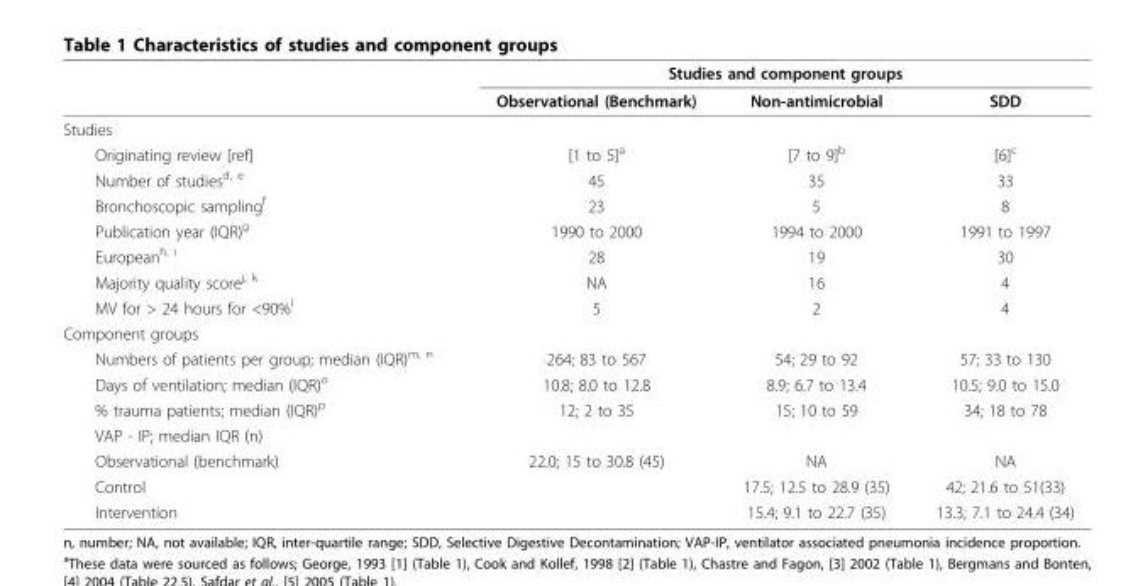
<table><thead><tr><td rowspan="2"></td><td colspan="3">Studies and component groups</td></tr><tr><td>Observational (Benchmark)</td><td>Non-antimicrobial</td><td>SDD</td></tr></thead><tbody><tr><td colspan="4">Studies</td></tr><tr><td>Originating review [ref]</td><td>[1 to 5]<sup>a</sup></td><td>[7 to 9]<sup>b</sup></td><td>[6]<sup>c</sup></td></tr><tr><td>Number of studies<sup>d, e</sup></td><td>45</td><td>35</td><td>33</td></tr><tr><td>Bronchoscopic sampling<sup>f</sup></td><td>23</td><td>5</td><td>8</td></tr><tr><td>Publication year (IQR)<sup>g</sup></td><td>1990 to 2000</td><td>1994 to 2000</td><td>1991 to 1997</td></tr><tr><td>European<sup>h, i</sup></td><td>28</td><td>19</td><td>30</td></tr><tr><td>Majority quality score<sup>j, k</sup></td><td>NA</td><td>16</td><td>4</td></tr><tr><td>MV for &gt; 24 hours for &lt;90%<sup>l</sup></td><td>5</td><td>2</td><td>4</td></tr><tr><td colspan="4">Component groups</td></tr><tr><td>Numbers of patients per group; median (IQR)<sup>m, n</sup></td><td>264; 83 to 567</td><td>54; 29 to 92</td><td>57; 33 to 130</td></tr><tr><td>Days of ventilation; median (IQR)<sup>o</sup></td><td>10.8; 8.0 to 12.8</td><td>8.9; 6.7 to 13.4</td><td>10.5; 9.0 to 15.0</td></tr><tr><td>% trauma patients; median (IQR)<sup>p</sup></td><td>12; 2 to 35</td><td>15; 10 to 59</td><td>34; 18 to 78</td></tr><tr><td colspan="4">VAP - IP; median IQR (n)</td></tr><tr><td>Observational (benchmark)</td><td>22.0; 15 to 30.8 (45)</td><td>NA</td><td>NA</td></tr><tr><td>Control</td><td></td><td>17.5; 12.5 to 28.9 (35)</td><td>42; 21.6 to 51(33)</td></tr><tr><td>Intervention</td><td></td><td>15.4; 9.1 to 22.7 (35)</td><td>13.3; 7.1 to 24.4 (34)</td></tr></tbody></table>